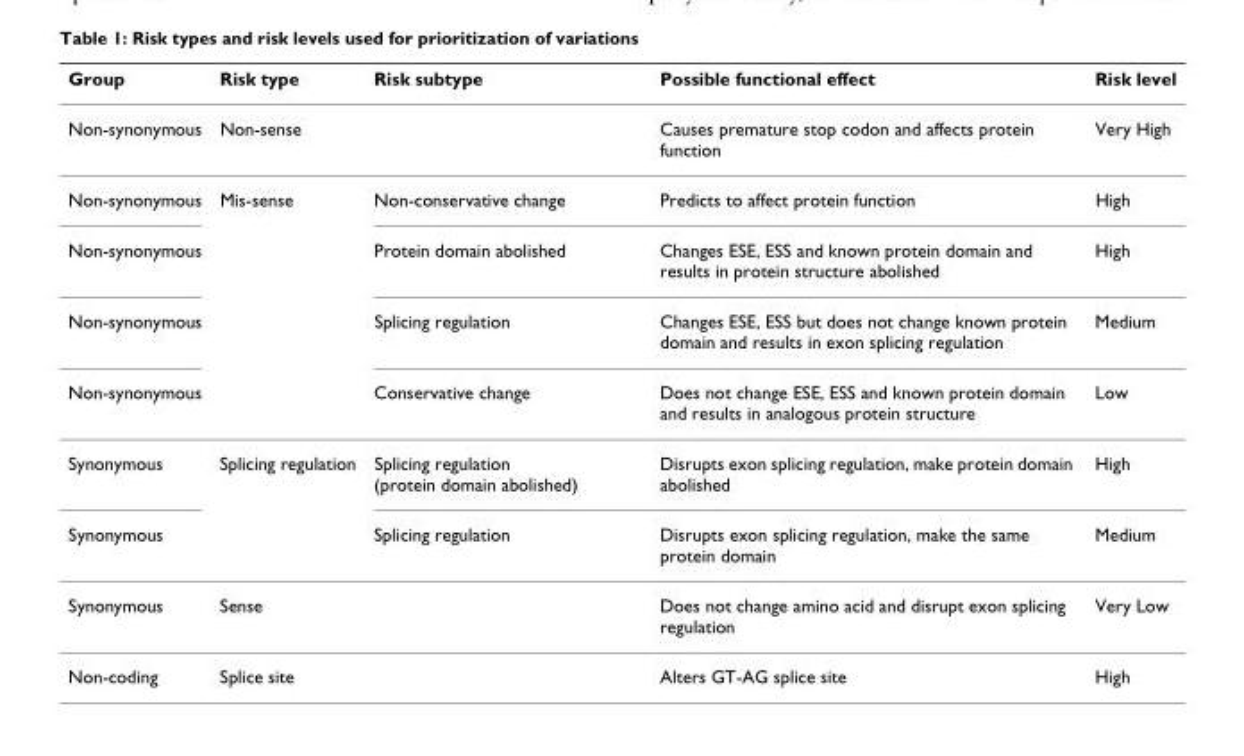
<table><thead><tr><td>Group</td><td>Risk type</td><td>Risk subtype</td><td>Possible functional effect</td><td>Risk level</td></tr></thead><tbody><tr><td>Non-synonymous</td><td>Non-sense</td><td></td><td>Causes premature stop codon and affects protein function</td><td>Very High</td></tr><tr><td>Non-synonymous</td><td>Mis-sense</td><td>Non-conservative change</td><td>Predicts to affect protein function</td><td>High</td></tr><tr><td>Non-synonymous</td><td></td><td>Protein domain abolished</td><td>Changes ESE, ESS and known protein domain and results in protein structure abolished</td><td>High</td></tr><tr><td>Non-synonymous</td><td></td><td>Splicing regulation</td><td>Changes ESE, ESS but does not change known protein domain and results in exon splicing regulation</td><td>Medium</td></tr><tr><td>Non-synonymous</td><td></td><td>Conservative change</td><td>Does not change ESE, ESS and known protein domain and results in analogous protein structure</td><td>Low</td></tr><tr><td>Synonymous</td><td>Splicing regulation</td><td>Splicing regulation (protein domain abolished)</td><td>Disrupts exon splicing regulation, make protein domain abolished</td><td>High</td></tr><tr><td>Synonymous</td><td></td><td>Splicing regulation</td><td>Disrupts exon splicing regulation, make the same protein domain</td><td>Medium</td></tr><tr><td>Synonymous</td><td>Sense</td><td></td><td>Does not change amino acid and disrupt exon splicing regulation</td><td>Very Low</td></tr><tr><td>Non-coding</td><td>Splice site</td><td></td><td>Alters GT-AG splice site</td><td>High</td></tr></tbody></table>